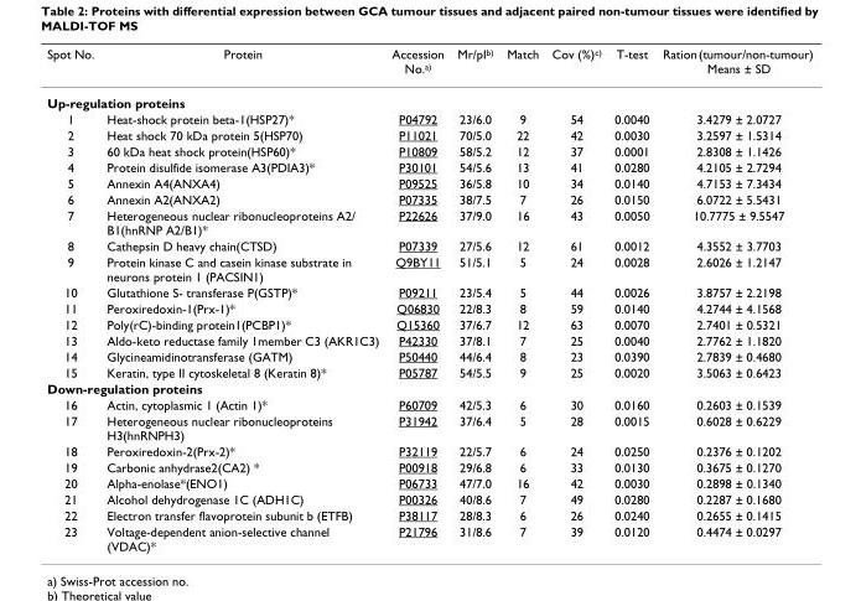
<table><thead><tr><td>Spot No.</td><td>Protein</td><td>Accession No.<sup>a)</sup></td><td>Mr/pI<sup>b)</sup></td><td>Match</td><td>Cov (%)<sup>c)</sup></td><td>T-test</td><td>Ration (tumour/non-tumour) Means ± SD</td></tr></thead><tbody><tr><td colspan="8">Up-regulation proteins</td></tr><tr><td>1</td><td>Heat-shock protein beta-1(HSP27)*</td><td>P04792</td><td>23/6.0</td><td>9</td><td>54</td><td>0.0040</td><td>3.4279 ± 2.0727</td></tr><tr><td>2</td><td>Heat shock 70 kDa protein 5(HSP70)</td><td>P11021</td><td>70/5.0</td><td>22</td><td>42</td><td>0.0030</td><td>3.2597 ± 1.5314</td></tr><tr><td>3</td><td>60 kDa heat shock protein(HSP60)*</td><td>P10809</td><td>58/5.2</td><td>12</td><td>37</td><td>0.0001</td><td>2.8308 ± 1.1426</td></tr><tr><td>4</td><td>Protein disulfide isomerase A3(PDIA3)*</td><td>P30101</td><td>54/5.6</td><td>13</td><td>41</td><td>0.0280</td><td>4.2105 ± 2.7294</td></tr><tr><td>5</td><td>Annexin A4(ANXA4)</td><td>P09525</td><td>36/5.8</td><td>10</td><td>34</td><td>0.0140</td><td>4.7153 ± 7.3434</td></tr><tr><td>6</td><td>Annexin A2(ANXA2)</td><td>P07335</td><td>38/7.5</td><td>7</td><td>26</td><td>0.0150</td><td>6.0722 ± 5.5431</td></tr><tr><td>7</td><td>Heterogeneous nuclear ribonucleoproteins A2/ B1(hnRNP A2/B1)*</td><td>P22626</td><td>37/9.0</td><td>16</td><td>43</td><td>0.0050</td><td>10.7775 ± 9.5547</td></tr><tr><td>8</td><td>Cathepsin D heavy chain(CTSD)</td><td>P07339</td><td>27/5.6</td><td>12</td><td>61</td><td>0.0012</td><td>4.3552 ± 3.7703</td></tr><tr><td>9</td><td>Protein kinase C and casein kinase substrate in neurons protein 1 (PACSIN1)</td><td>Q9BY11</td><td>51/5.1</td><td>5</td><td>24</td><td>0.0028</td><td>2.6026 ± 1.2147</td></tr><tr><td>10</td><td>Glutathione S- transferase P(GSTP)*</td><td>P09211</td><td>23/5.4</td><td>5</td><td>44</td><td>0.0026</td><td>3.8757 ± 2.2198</td></tr><tr><td>11</td><td>Peroxiredoxin-1(Prx-1)*</td><td>Q06830</td><td>22/8.3</td><td>8</td><td>59</td><td>0.0140</td><td>4.2744 ± 4.1568</td></tr><tr><td>12</td><td>Poly(rC)-binding protein1(PCBP1)*</td><td>Q15360</td><td>37/6.7</td><td>12</td><td>63</td><td>0.0070</td><td>2.7401 ± 0.5321</td></tr><tr><td>13</td><td>Aldo-keto reductase family 1member C3 (AKR1C3)</td><td>P42330</td><td>37/8.1</td><td>7</td><td>25</td><td>0.0040</td><td>2.7762 ± 1.1820</td></tr><tr><td>14</td><td>Glycineamidinotransferase (GATM)</td><td>P50440</td><td>44/6.4</td><td>8</td><td>23</td><td>0.0390</td><td>2.7839 ± 0.4680</td></tr><tr><td>15</td><td>Keratin, type II cytoskeletal 8 (Keratin 8)*</td><td>P05787</td><td>54/5.5</td><td>9</td><td>25</td><td>0.0020</td><td>3.5063 ± 0.6423</td></tr><tr><td colspan="8">Down-regulation proteins</td></tr><tr><td>16</td><td>Actin, cytoplasmic 1 (Actin 1)*</td><td>P60709</td><td>42/5.3</td><td>6</td><td>30</td><td>0.0160</td><td>0.2603 ± 0.1539</td></tr><tr><td>17</td><td>Heterogeneous nuclear ribonucleoproteins H3(hnRNPH3)</td><td>P31942</td><td>37/6.4</td><td>5</td><td>28</td><td>0.0015</td><td>0.6028 ± 0.6229</td></tr><tr><td>18</td><td>Peroxiredoxin-2(Prx-2)*</td><td>P32119</td><td>22/5.7</td><td>6</td><td>24</td><td>0.0250</td><td>0.2376 ± 0.1202</td></tr><tr><td>19</td><td>Carbonic anhydrase2(CA2) *</td><td>P00918</td><td>29/6.8</td><td>6</td><td>33</td><td>0.0130</td><td>0.3675 ± 0.1270</td></tr><tr><td>20</td><td>Alpha-enolase*(ENO1)</td><td>P06733</td><td>47/7.0</td><td>16</td><td>42</td><td>0.0030</td><td>0.2898 ± 0.1340</td></tr><tr><td>21</td><td>Alcohol dehydrogenase 1C (ADH1C)</td><td>P00326</td><td>40/8.6</td><td>7</td><td>49</td><td>0.0280</td><td>0.2287 ± 0.1680</td></tr><tr><td>22</td><td>Electron transfer flavoprotein subunit b (ETFB)</td><td>P38117</td><td>28/8.3</td><td>6</td><td>26</td><td>0.0240</td><td>0.2655 ± 0.1415</td></tr><tr><td>23</td><td>Voltage-dependent anion-selective channel (VDAC)*</td><td>P21796</td><td>31/8.6</td><td>7</td><td>39</td><td>0.0120</td><td>0.4474 ± 0.0297</td></tr></tbody></table>